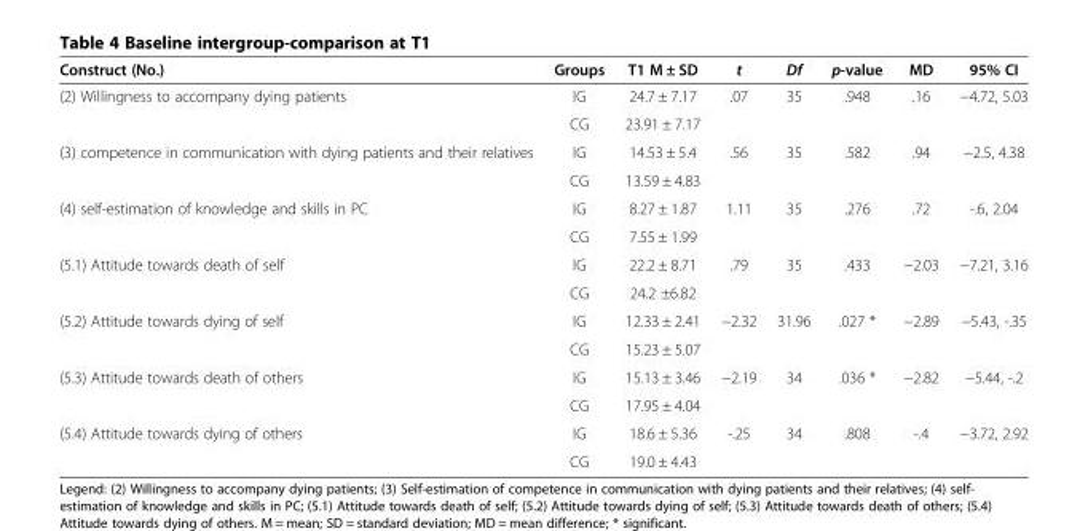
<table><thead><tr><td>Construct (No.)</td><td>Groups</td><td>T1 M ± SD</td><td>t</td><td>Df</td><td>p-value</td><td>MD</td><td>95% CI</td></tr></thead><tbody><tr><td rowspan="2">(2) Willingness to accompany dying patients</td><td>IG</td><td>24.7 ± 7.17</td><td rowspan="2">.07</td><td rowspan="2">35</td><td rowspan="2">.948</td><td rowspan="2">.16</td><td rowspan="2">−4.72, 5.03</td></tr><tr><td>CG</td><td>23.91 ± 7.17</td></tr><tr><td rowspan="2">(3) competence in communication with dying patients and their relatives</td><td>IG</td><td>14.53 ± 5.4</td><td rowspan="2">.56</td><td rowspan="2">35</td><td rowspan="2">.582</td><td rowspan="2">.94</td><td rowspan="2">−2.5, 4.38</td></tr><tr><td>CG</td><td>13.59 ± 4.83</td></tr><tr><td rowspan="2">(4) self-estimation of knowledge and skills in PC</td><td>IG</td><td>8.27 ± 1.87</td><td rowspan="2">1.11</td><td rowspan="2">35</td><td rowspan="2">.276</td><td rowspan="2">.72</td><td rowspan="2">-.6, 2.04</td></tr><tr><td>CG</td><td>7.55 ± 1.99</td></tr><tr><td rowspan="2">(5.1) Attitude towards death of self</td><td>IG</td><td>22.2 ± 8.71</td><td rowspan="2">.79</td><td rowspan="2">35</td><td rowspan="2">.433</td><td rowspan="2">−2.03</td><td rowspan="2">−7.21, 3.16</td></tr><tr><td>CG</td><td>24.2 ±6.82</td></tr><tr><td rowspan="2">(5.2) Attitude towards dying of self</td><td>IG</td><td>12.33 ± 2.41</td><td rowspan="2">−2.32</td><td rowspan="2">31.96</td><td rowspan="2">.027 *</td><td rowspan="2">−2.89</td><td rowspan="2">−5.43, -.35</td></tr><tr><td>CG</td><td>15.23 ± 5.07</td></tr><tr><td rowspan="2">(5.3) Attitude towards death of others</td><td>IG</td><td>15.13 ± 3.46</td><td rowspan="2">−2.19</td><td rowspan="2">34</td><td rowspan="2">.036 *</td><td rowspan="2">−2.82</td><td rowspan="2">−5.44, -.2</td></tr><tr><td>CG</td><td>17.95 ± 4.04</td></tr><tr><td rowspan="2">(5.4) Attitude towards dying of others</td><td>IG</td><td>18.6 ± 5.36</td><td>-.25</td><td>34</td><td>.808</td><td>-.4</td><td>−3.72, 2.92</td></tr><tr><td>CG</td><td>19.0 ± 4.43</td><td></td><td></td><td></td><td></td><td></td></tr></tbody></table>